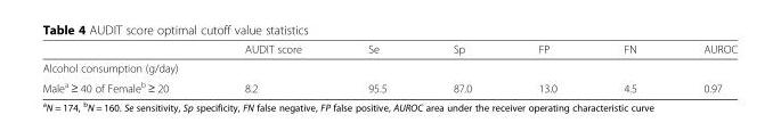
<table><thead><tr><td></td><td>AUDIT score</td><td>Se</td><td>Sp</td><td>FP</td><td>FN</td><td>AUROC</td></tr></thead><tbody><tr><td colspan="7">Alcohol consumption (g/day)</td></tr><tr><td>Male<sup>a</sup> ≥ 40 of Female<sup>b</sup> ≥ 20</td><td>8.2</td><td>95.5</td><td>87.0</td><td>13.0</td><td>4.5</td><td>0.97</td></tr></tbody></table>